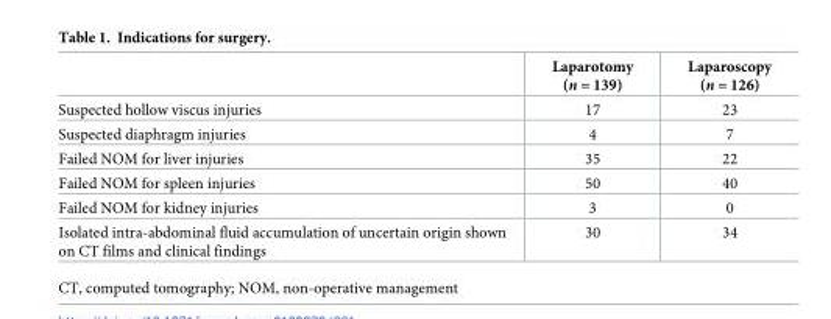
<table><thead><tr><td></td><td>Laparotomy (n = 139)</td><td>Laparoscopy (n = 126)</td></tr></thead><tbody><tr><td>Suspected hollow viscus injuries</td><td>17</td><td>23</td></tr><tr><td>Suspected diaphragm injuries</td><td>4</td><td>7</td></tr><tr><td>Failed NOM for liver injuries</td><td>35</td><td>22</td></tr><tr><td>Failed NOM for spleen injuries</td><td>50</td><td>40</td></tr><tr><td>Failed NOM for kidney injuries</td><td>3</td><td>0</td></tr><tr><td>Isolated intra-abdominal fluid accumulation of uncertain origin shown on CT films and clinical findings</td><td>30</td><td>34</td></tr></tbody></table>